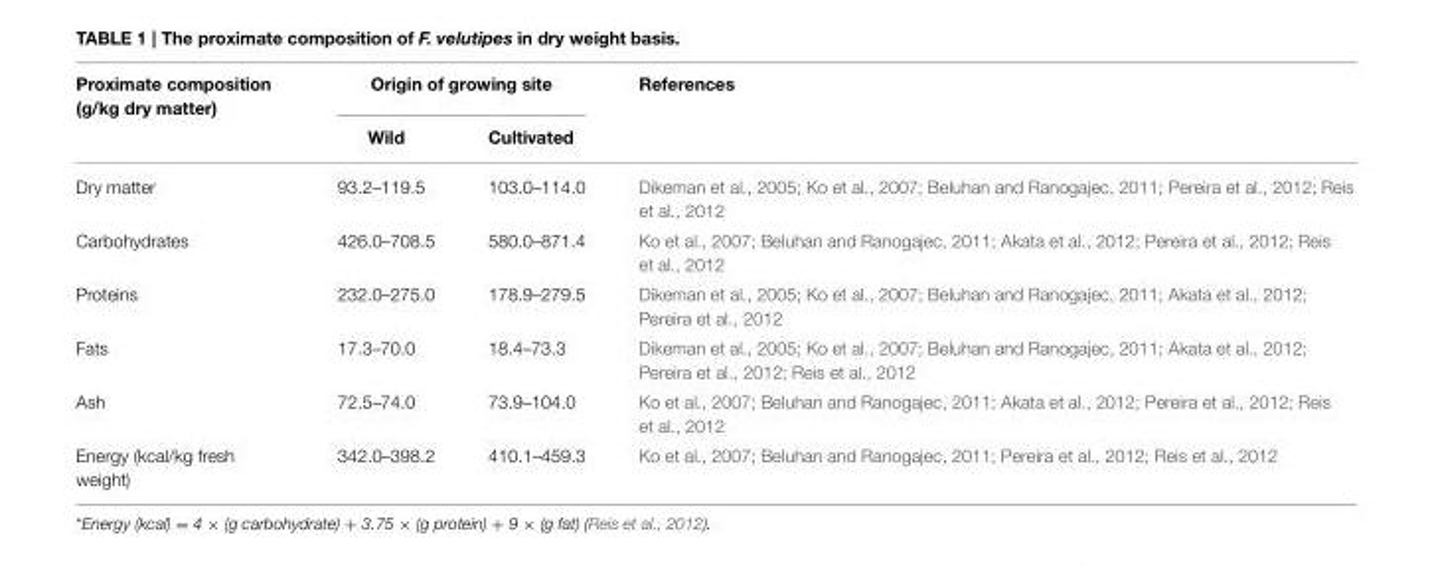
<table><thead><tr><td rowspan="2">Proximate composition (g/kg dry matter)</td><td colspan="2">Origin of growing site</td><td rowspan="2">References</td></tr><tr><td>Wild</td><td>Cultivated</td></tr></thead><tbody><tr><td>Dry matter</td><td>93.2–119.5</td><td>103.0–114.0</td><td>Dikeman et al., 2005; Ko et al., 2007; Beluhan and Ranogajec, 2011; Pereira et al., 2012; Reis et al., 2012</td></tr><tr><td>Carbohydrates</td><td>426.0–708.5</td><td>580.0–871.4</td><td>Ko et al., 2007; Beluhan and Ranogajec, 2011; Akata et al., 2012; Pereira et al., 2012; Reis et al., 2012</td></tr><tr><td>Proteins</td><td>232.0–275.0</td><td>178.9–279.5</td><td>Dikeman et al., 2005; Ko et al., 2007; Beluhan and Ranogajec, 2011; Akata et al., 2012; Pereira et al., 2012</td></tr><tr><td>Fats</td><td>17.3–70.0</td><td>18.4–73.3</td><td>Dikeman et al., 2005; Ko et al., 2007; Beluhan and Ranogajec, 2011; Akata et al., 2012; Pereira et al., 2012; Reis et al., 2012</td></tr><tr><td>Ash</td><td>72.5–74.0</td><td>73.9–104.0</td><td>Ko et al., 2007; Beluhan and Ranogajec, 2011; Akata et al., 2012; Pereira et al., 2012; Reis et al., 2012</td></tr><tr><td>Energy (kcal/kg fresh weight)</td><td>342.0–398.2</td><td>410.1–459.3</td><td>Ko et al., 2007; Beluhan and Ranogajec, 2011; Pereira et al., 2012; Reis et al., 2012</td></tr></tbody></table>